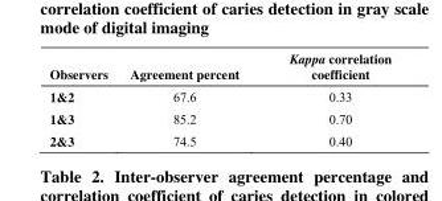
<table><tbody><tr><td>Observers</td><td>Agreement percent</td><td>Kappa correlation coefficient</td></tr><tr><td>1&amp;2</td><td>67.6</td><td>0.33</td></tr><tr><td>1&amp;3</td><td>85.2</td><td>0.70</td></tr><tr><td>2&amp;3</td><td>74.5</td><td>0.40</td></tr></tbody></table>